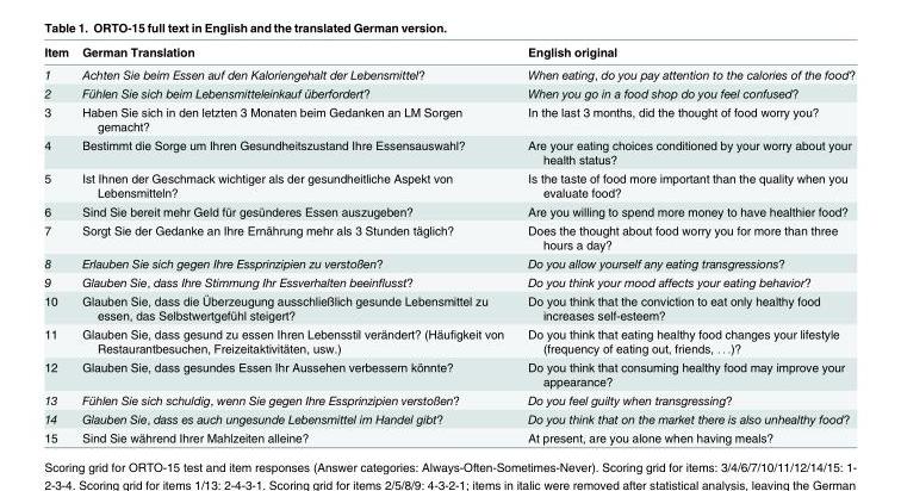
<table><thead><tr><td>Item</td><td>German Translation</td><td>English original</td></tr></thead><tbody><tr><td>1</td><td>Achten Sie beim Essen auf den Kaloriengehalt der Lebensmittel?</td><td>When eating, do you pay attention to the calories of the food?</td></tr><tr><td>2</td><td>Fühlen Sie sich beim Lebensmitteleinkauf überfordert?</td><td>When you go in a food shop do you feel confused?</td></tr><tr><td>3</td><td>Haben Sie sich in den letzten 3 Monaten beim Gedanken an LM Sorgen gemacht?</td><td>In the last 3 months, did the thought of food worry you?</td></tr><tr><td>4</td><td>Bestimmt die Sorge um Ihren Gesundheitszustand Ihre Essensauswahl?</td><td>Are your eating choices conditioned by your worry about your health status?</td></tr><tr><td>5</td><td>Ist Ihnen der Geschmack wichtiger als der gesundheitliche Aspekt von Lebensmitteln?</td><td>Is the taste of food more important than the quality when you evaluate food?</td></tr><tr><td>6</td><td>Sind Sie bereit mehr Geld für gesünderes Essen auszugeben?</td><td>Are you willing to spend more money to have healthier food?</td></tr><tr><td>7</td><td>Sorgt Sie der Gedanke an Ihre Ernährung mehr als 3 Stunden täglich?</td><td>Does the thought about food worry you for more than three hours a day?</td></tr><tr><td>8</td><td>Erlauben Sie sich gegen Ihre Essprinzipien zu verstoßen?</td><td>Do you allow yourself any eating transgressions?</td></tr><tr><td>9</td><td>Glauben Sie, dass Ihre Stimmung Ihr Essverhalten beeinflusst?</td><td>Do you think your mood affects your eating behavior?</td></tr><tr><td>10</td><td>Glauben Sie, dass die Überzeugung ausschließlich gesunde Lebensmittel zu essen, das Selbstwertgefühl steigert?</td><td>Do you think that the conviction to eat only healthy food increases self-esteem?</td></tr><tr><td>11</td><td>Glauben Sie, dass gesund zu essen Ihren Lebensstil verändert? (Häufigkeit von Restaurantbesuchen, Freizeitaktivitäten, usw.)</td><td>Do you think that eating healthy food changes your lifestyle (frequency of eating out, friends, . . .)?</td></tr><tr><td>12</td><td>Glauben Sie, dass gesundes Essen Ihr Aussehen verbessern könnte?</td><td>Do you think that consuming healthy food may improve your appearance?</td></tr><tr><td>13</td><td>Fühlen Sie sich schuldig, wenn Sie gegen Ihre Essprinzipien verstoßen?</td><td>Do you feel guilty when transgressing?</td></tr><tr><td>14</td><td>Glauben Sie, dass es auch ungesunde Lebensmittel im Handel gibt?</td><td>Do you think that on the market there is also unhealthy food?</td></tr><tr><td>15</td><td>Sind Sie während Ihrer Mahlzeiten alleine?</td><td>At present, are you alone when having meals?</td></tr></tbody></table>